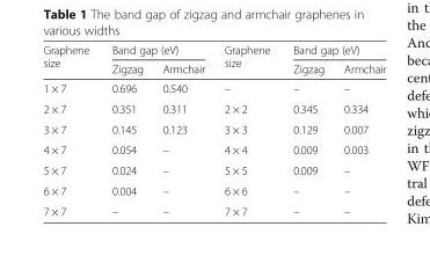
<table><thead><tr><td rowspan="2">Graphene size</td><td colspan="2">Band gap (eV)</td><td rowspan="2">Graphene size</td><td colspan="2">Band gap (eV)</td></tr><tr><td>Zigzag</td><td>Armchair</td><td>Zigzag</td><td>Armchair</td></tr></thead><tbody><tr><td>1 × 7</td><td>0.696</td><td>0.540</td><td>–</td><td>–</td><td>–</td></tr><tr><td>2 × 7</td><td>0.351</td><td>0.311</td><td>2 × 2</td><td>0.345</td><td>0.334</td></tr><tr><td>3 × 7</td><td>0.145</td><td>0.123</td><td>3 × 3</td><td>0.129</td><td>0.007</td></tr><tr><td>4 × 7</td><td>0.054</td><td>–</td><td>4 × 4</td><td>0.009</td><td>0.003</td></tr><tr><td>5 × 7</td><td>0.024</td><td>–</td><td>5 × 5</td><td>0.009</td><td>–</td></tr><tr><td>6 × 7</td><td>0.004</td><td>–</td><td>6 × 6</td><td>–</td><td>–</td></tr><tr><td>7 × 7</td><td>–</td><td>–</td><td>7 × 7</td><td>–</td><td>–</td></tr></tbody></table>